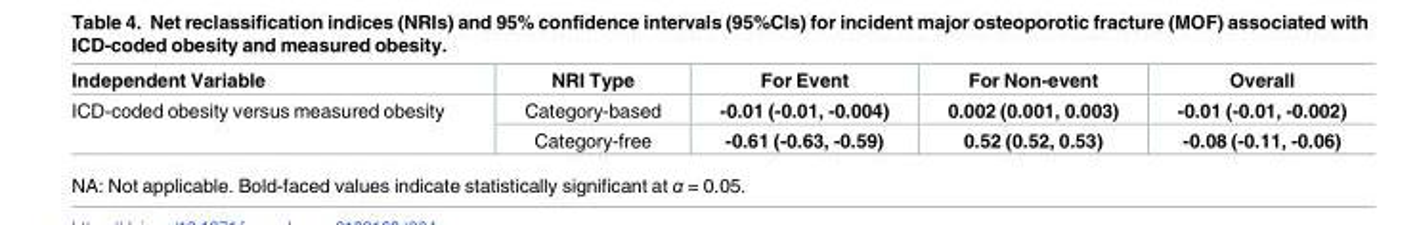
<table><thead><tr><td>Independent Variable</td><td>NRI Type</td><td>For Event</td><td>For Non-event</td><td>Overall</td></tr></thead><tbody><tr><td rowspan="2">ICD-coded obesity versus measured obesity</td><td>Category-based</td><td>-0.01 (-0.01, -0.004)</td><td>0.002 (0.001, 0.003)</td><td>-0.01 (-0.01, -0.002)</td></tr><tr><td>Category-free</td><td>-0.61 (-0.63, -0.59)</td><td>0.52 (0.52, 0.53)</td><td>-0.08 (-0.11, -0.06)</td></tr></tbody></table>